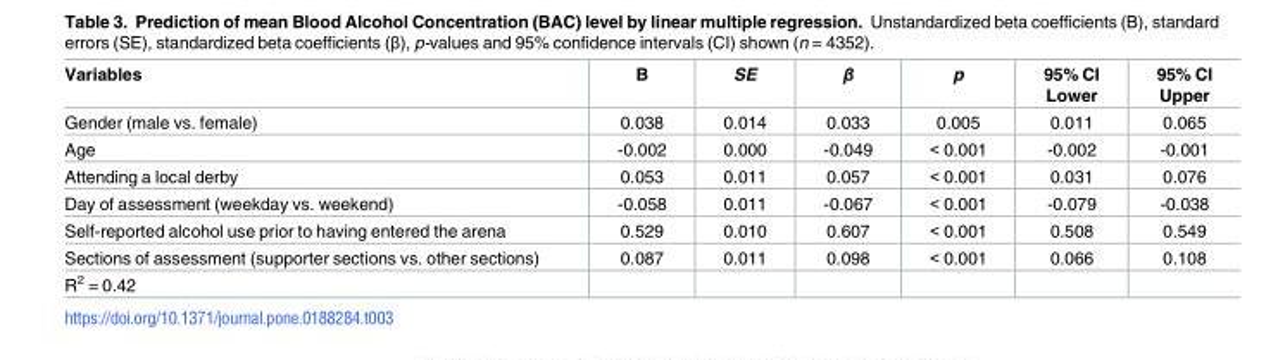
<table><thead><tr><td>Variables</td><td>B</td><td>SE</td><td>β</td><td>p</td><td>95% CI Lower</td><td>95% CI Upper</td></tr></thead><tbody><tr><td>Gender (male vs. female)</td><td>0.038</td><td>0.014</td><td>0.033</td><td>0.005</td><td>0.011</td><td>0.065</td></tr><tr><td>Age</td><td>-0.002</td><td>0.000</td><td>-0.049</td><td>&lt; 0.001</td><td>-0.002</td><td>-0.001</td></tr><tr><td>Attending a local derby</td><td>0.053</td><td>0.011</td><td>0.057</td><td>&lt; 0.001</td><td>0.031</td><td>0.076</td></tr><tr><td>Day of assessment (weekday vs. weekend)</td><td>-0.058</td><td>0.011</td><td>-0.067</td><td>&lt; 0.001</td><td>-0.079</td><td>-0.038</td></tr><tr><td>Self-reported alcohol use prior to having entered the arena</td><td>0.529</td><td>0.010</td><td>0.607</td><td>&lt; 0.001</td><td>0.508</td><td>0.549</td></tr><tr><td>Sections of assessment (supporter sections vs. other sections)</td><td>0.087</td><td>0.011</td><td>0.098</td><td>&lt; 0.001</td><td>0.066</td><td>0.108</td></tr><tr><td>R<sup>2</sup> = 0.42</td><td></td><td></td><td></td><td></td><td></td><td></td></tr></tbody></table>